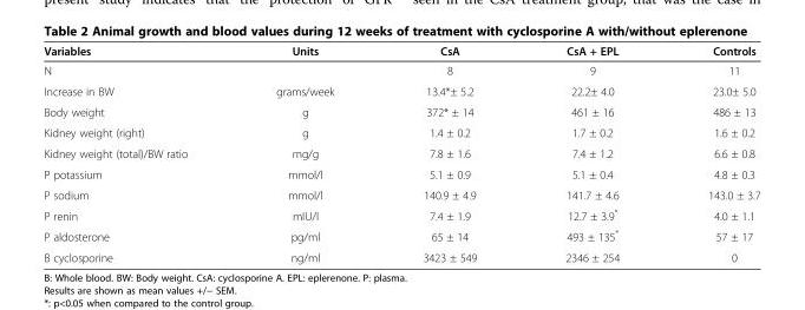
<table><thead><tr><td>Variables</td><td>Units</td><td>CsA</td><td>CsA + EPL</td><td>Controls</td></tr></thead><tbody><tr><td>N</td><td></td><td>8</td><td>9</td><td>11</td></tr><tr><td>Increase in BW</td><td>grams/week</td><td>13.4*± 5.2</td><td>22.2± 4.0</td><td>23.0± 5.0</td></tr><tr><td>Body weight</td><td>g</td><td>372* ± 14</td><td>461 ± 16</td><td>486 ± 13</td></tr><tr><td>Kidney weight (right)</td><td>g</td><td>1.4 ± 0.2</td><td>1.7 ± 0.2</td><td>1.6 ± 0.2</td></tr><tr><td>Kidney weight (total)/BW ratio</td><td>mg/g</td><td>7.8 ± 1.6</td><td>7.4 ± 1.2</td><td>6.6 ± 0.8</td></tr><tr><td>P potassium</td><td>mmol/l</td><td>5.1 ± 0.9</td><td>5.1 ± 0.4</td><td>4.8 ± 0.3</td></tr><tr><td>P sodium</td><td>mmol/l</td><td>140.9 ± 4.9</td><td>141.7 ± 4.6</td><td>143.0 ± 3.7</td></tr><tr><td>P renin</td><td>mIU/l</td><td>7.4 ± 1.9</td><td>12.7 ± 3.9*</td><td>4.0 ± 1.1</td></tr><tr><td>P aldosterone</td><td>pg/ml</td><td>65 ± 14</td><td>493 ± 135*</td><td>57 ± 17</td></tr><tr><td>B cyclosporine</td><td>ng/ml</td><td>3423 ± 549</td><td>2346 ± 254</td><td>0</td></tr></tbody></table>